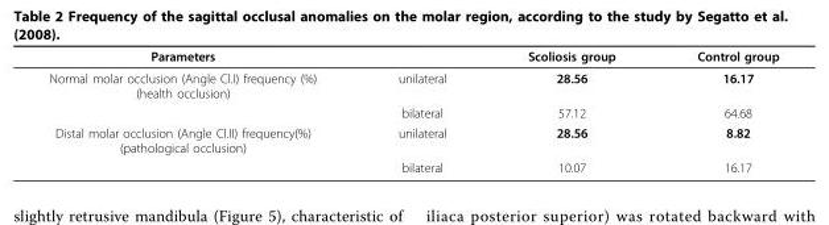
<table><thead><tr><td>Parameters</td><td></td><td>Scoliosis group</td><td>Control group</td></tr></thead><tbody><tr><td rowspan="2">Normal molar occlusion (Angle Cl.I) frequency (%) (health occlusion)</td><td>unilateral</td><td>28.56</td><td>16.17</td></tr><tr><td>bilateral</td><td>57.12</td><td>64.68</td></tr><tr><td rowspan="2">Distal molar occlusion (Angle Cl.II) frequency(%) (pathological occlusion)</td><td>unilateral</td><td>28.56</td><td>8.82</td></tr><tr><td>bilateral</td><td>10.07</td><td>16.17</td></tr></tbody></table>